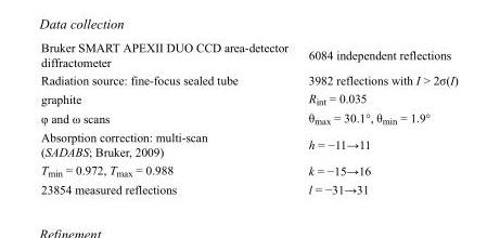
<table><tbody><tr><td>Bruker SMART APEXII DUO CCD area-detector diffractometer</td><td>6084 independent reflections</td></tr><tr><td>Radiation source: fine-focus sealed tube</td><td>3982 reflections with I &gt; 2σ(I)</td></tr><tr><td>graphite</td><td>R<sub>int</sub> = 0.035</td></tr><tr><td>φ and ω scans</td><td>θ<sub>max</sub> = 30.1°, θ<sub>min</sub> = 1.9°</td></tr><tr><td>Absorption correction: multi-scan (SADABS; Bruker, 2009)</td><td>h = −11→11</td></tr><tr><td>T<sub>min</sub> = 0.972, T<sub>max</sub> = 0.988</td><td>k = −15→16</td></tr><tr><td>23854 measured reflections</td><td>l = −31→31</td></tr></tbody></table>